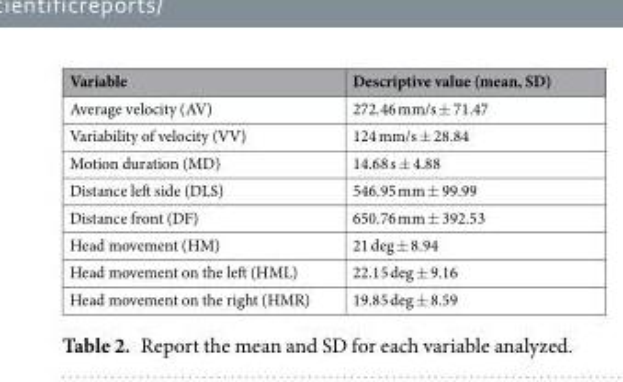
<table><thead><tr><td>Variable</td><td>Descriptive value (mean, SD)</td></tr></thead><tbody><tr><td>Average velocity (AV)</td><td>272.46 mm/s ± 71.47</td></tr><tr><td>Variability of velocity (VV)</td><td>124 mm/s ± 28.84</td></tr><tr><td>Motion duration (MD)</td><td>14.68 s ± 4.88</td></tr><tr><td>Distance left side (DLS)</td><td>546.95 mm ± 99.99</td></tr><tr><td>Distance front (DF)</td><td>650.76 mm ± 392.53</td></tr><tr><td>Head movement (HM)</td><td>21 deg ± 8.94</td></tr><tr><td>Head movement on the left (HML)</td><td>22.15 deg ± 9.16</td></tr><tr><td>Head movement on the right (HMR)</td><td>19.85 deg ± 8.59</td></tr></tbody></table>